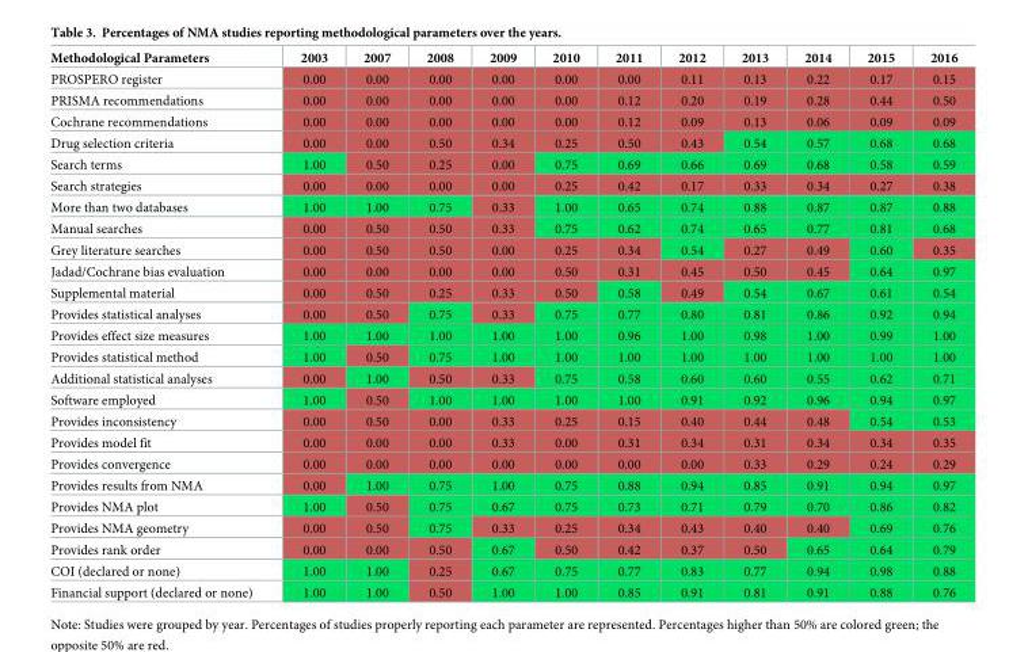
<table><thead><tr><td>Methodological Parameters</td><td>2003</td><td>2007</td><td>2008</td><td>2009</td><td>2010</td><td>2011</td><td>2012</td><td>2013</td><td>2014</td><td>2015</td><td>2016</td></tr></thead><tbody><tr><td>PROSPERO register</td><td>0.00</td><td>0.00</td><td>0.00</td><td>0.00</td><td>0.00</td><td>0.00</td><td>0.11</td><td>0.13</td><td>0.22</td><td>0.17</td><td>0.15</td></tr><tr><td>PRISMA recommendations</td><td>0.00</td><td>0.00</td><td>0.00</td><td>0.00</td><td>0.00</td><td>0.12</td><td>0.20</td><td>0.19</td><td>0.28</td><td>0.44</td><td>0.50</td></tr><tr><td>Cochrane recommendations</td><td>0.00</td><td>0.00</td><td>0.00</td><td>0.00</td><td>0.00</td><td>0.12</td><td>0.09</td><td>0.13</td><td>0.06</td><td>0.09</td><td>0.09</td></tr><tr><td>Drug selection criteria</td><td>0.00</td><td>0.00</td><td>0.50</td><td>0.34</td><td>0.25</td><td>0.50</td><td>0.43</td><td>0.54</td><td>0.57</td><td>0.68</td><td>0.68</td></tr><tr><td>Search terms</td><td>1.00</td><td>0.50</td><td>0.25</td><td>0.00</td><td>0.75</td><td>0.69</td><td>0.66</td><td>0.69</td><td>0.68</td><td>0.58</td><td>0.59</td></tr><tr><td>Search strategies</td><td>0.00</td><td>0.00</td><td>0.00</td><td>0.00</td><td>0.25</td><td>0.42</td><td>0.17</td><td>0.33</td><td>0.34</td><td>0.27</td><td>0.38</td></tr><tr><td>More than two databases</td><td>1.00</td><td>1.00</td><td>0.75</td><td>0.33</td><td>1.00</td><td>0.65</td><td>0.74</td><td>0.88</td><td>0.87</td><td>0.87</td><td>0.88</td></tr><tr><td>Manual searches</td><td>0.00</td><td>0.50</td><td>0.50</td><td>0.33</td><td>0.75</td><td>0.62</td><td>0.74</td><td>0.65</td><td>0.77</td><td>0.81</td><td>0.68</td></tr><tr><td>Grey literature searches</td><td>0.00</td><td>0.50</td><td>0.50</td><td>0.00</td><td>0.25</td><td>0.34</td><td>0.54</td><td>0.27</td><td>0.49</td><td>0.60</td><td>0.35</td></tr><tr><td>Jadad/Cochrane bias evaluation</td><td>0.00</td><td>0.00</td><td>0.00</td><td>0.00</td><td>0.50</td><td>0.31</td><td>0.45</td><td>0.50</td><td>0.45</td><td>0.64</td><td>0.97</td></tr><tr><td>Supplemental material</td><td>0.00</td><td>0.50</td><td>0.25</td><td>0.33</td><td>0.50</td><td>0.58</td><td>0.49</td><td>0.54</td><td>0.67</td><td>0.61</td><td>0.54</td></tr><tr><td>Provides statistical analyses</td><td>0.00</td><td>0.50</td><td>0.75</td><td>0.33</td><td>0.75</td><td>0.77</td><td>0.80</td><td>0.81</td><td>0.86</td><td>0.92</td><td>0.94</td></tr><tr><td>Provides effect size measures</td><td>1.00</td><td>1.00</td><td>1.00</td><td>1.00</td><td>1.00</td><td>0.96</td><td>1.00</td><td>0.98</td><td>1.00</td><td>0.99</td><td>1.00</td></tr><tr><td>Provides statistical method</td><td>1.00</td><td>0.50</td><td>0.75</td><td>1.00</td><td>1.00</td><td>1.00</td><td>1.00</td><td>1.00</td><td>1.00</td><td>1.00</td><td>1.00</td></tr><tr><td>Additional statistical analyses</td><td>0.00</td><td>1.00</td><td>0.50</td><td>0.33</td><td>0.75</td><td>0.58</td><td>0.60</td><td>0.60</td><td>0.55</td><td>0.62</td><td>0.71</td></tr><tr><td>Software employed</td><td>1.00</td><td>0.50</td><td>1.00</td><td>1.00</td><td>1.00</td><td>1.00</td><td>0.91</td><td>0.92</td><td>0.96</td><td>0.94</td><td>0.97</td></tr><tr><td>Provides inconsistency</td><td>0.00</td><td>0.50</td><td>0.00</td><td>0.33</td><td>0.25</td><td>0.15</td><td>0.40</td><td>0.44</td><td>0.48</td><td>0.54</td><td>0.53</td></tr><tr><td>Provides model fit</td><td>0.00</td><td>0.00</td><td>0.00</td><td>0.33</td><td>0.00</td><td>0.31</td><td>0.34</td><td>0.31</td><td>0.34</td><td>0.34</td><td>0.35</td></tr><tr><td>Provides convergence</td><td>0.00</td><td>0.00</td><td>0.00</td><td>0.00</td><td>0.00</td><td>0.00</td><td>0.00</td><td>0.33</td><td>0.29</td><td>0.24</td><td>0.29</td></tr><tr><td>Provides results from NMA</td><td>0.00</td><td>1.00</td><td>0.75</td><td>1.00</td><td>0.75</td><td>0.88</td><td>0.94</td><td>0.85</td><td>0.91</td><td>0.94</td><td>0.97</td></tr><tr><td>Provides NMA plot</td><td>1.00</td><td>0.50</td><td>0.75</td><td>0.67</td><td>0.75</td><td>0.73</td><td>0.71</td><td>0.79</td><td>0.70</td><td>0.86</td><td>0.82</td></tr><tr><td>Provides NMA geometry</td><td>0.00</td><td>0.50</td><td>0.75</td><td>0.33</td><td>0.25</td><td>0.34</td><td>0.43</td><td>0.40</td><td>0.40</td><td>0.69</td><td>0.76</td></tr><tr><td>Provides rank order</td><td>0.00</td><td>0.00</td><td>0.50</td><td>0.67</td><td>0.50</td><td>0.42</td><td>0.37</td><td>0.50</td><td>0.65</td><td>0.64</td><td>0.79</td></tr><tr><td>COI (declared or none)</td><td>1.00</td><td>1.00</td><td>0.25</td><td>0.67</td><td>0.75</td><td>0.77</td><td>0.83</td><td>0.77</td><td>0.94</td><td>0.98</td><td>0.88</td></tr><tr><td>Financial support (declared or none)</td><td>1.00</td><td>1.00</td><td>0.50</td><td>1.00</td><td>1.00</td><td>0.85</td><td>0.91</td><td>0.81</td><td>0.91</td><td>0.88</td><td>0.76</td></tr></tbody></table>